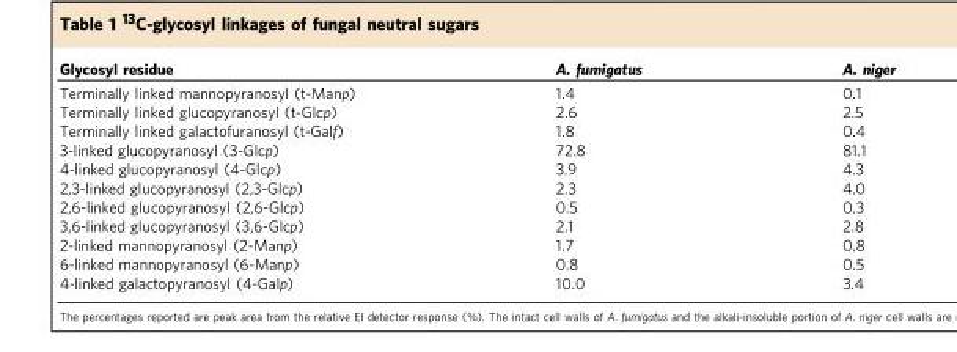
<table><thead><tr><td>Glycosyl residue</td><td>A. fumigatus</td><td>A. niger</td></tr></thead><tbody><tr><td>Terminally linked mannopyranosyl (t-Manp)</td><td>1.4</td><td>0.1</td></tr><tr><td>Terminally linked glucopyranosyl (t-Glcp)</td><td>2.6</td><td>2.5</td></tr><tr><td>Terminally linked galactofuranosyl (t-Galf)</td><td>1.8</td><td>0.4</td></tr><tr><td>3-linked glucopyranosyl (3-Glcp)</td><td>72.8</td><td>81.1</td></tr><tr><td>4-linked glucopyranosyl (4-Glcp)</td><td>3.9</td><td>4.3</td></tr><tr><td>2,3-linked glucopyranosyl (2,3-Glcp)</td><td>2.3</td><td>4.0</td></tr><tr><td>2,6-linked glucopyranosyl (2,6-Glcp)</td><td>0.5</td><td>0.3</td></tr><tr><td>3,6-linked glucopyranosyl (3,6-Glcp)</td><td>2.1</td><td>2.8</td></tr><tr><td>2-linked mannopyranosyl (2-Manp)</td><td>1.7</td><td>0.8</td></tr><tr><td>6-linked mannopyranosyl (6-Manp)</td><td>0.8</td><td>0.5</td></tr><tr><td>4-linked galactopyranosyl (4-Galp)</td><td>10.0</td><td>3.4</td></tr></tbody></table>